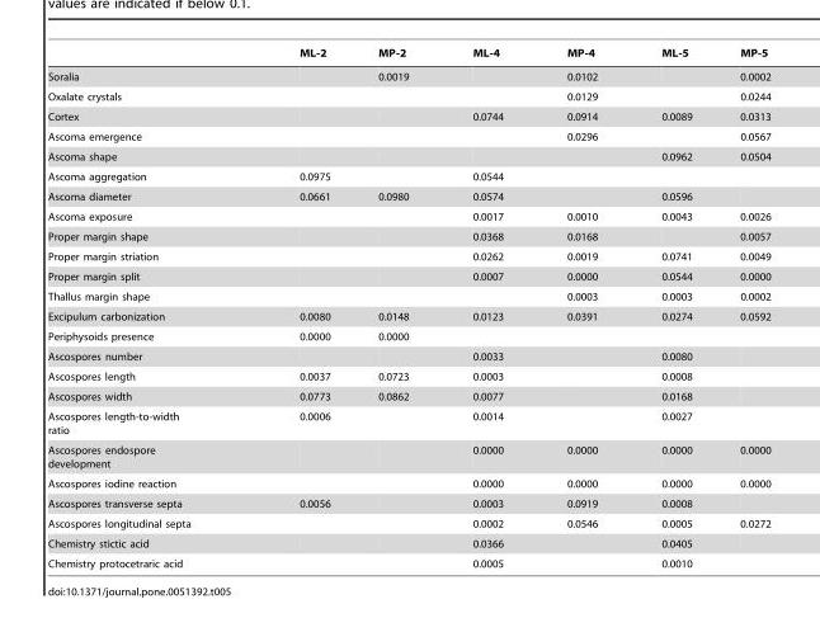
<table><thead><tr><td></td><td>ML-2</td><td>MP-2</td><td>ML-4</td><td>MP-4</td><td>ML-5</td><td>MP-5</td></tr></thead><tbody><tr><td>Soralia</td><td></td><td>0.0019</td><td></td><td>0.0102</td><td></td><td>0.0002</td></tr><tr><td>Oxalate crystals</td><td></td><td></td><td></td><td>0.0129</td><td></td><td>0.0244</td></tr><tr><td>Cortex</td><td></td><td></td><td>0.0744</td><td>0.0914</td><td>0.0089</td><td>0.0313</td></tr><tr><td>Ascoma emergence</td><td></td><td></td><td></td><td>0.0296</td><td></td><td>0.0567</td></tr><tr><td>Ascoma shape</td><td></td><td></td><td></td><td></td><td>0.0962</td><td>0.0504</td></tr><tr><td>Ascoma aggregation</td><td>0.0975</td><td></td><td>0.0544</td><td></td><td></td><td></td></tr><tr><td>Ascoma diameter</td><td>0.0661</td><td>0.0980</td><td>0.0574</td><td></td><td>0.0596</td><td></td></tr><tr><td>Ascoma exposure</td><td></td><td></td><td>0.0017</td><td>0.0010</td><td>0.0043</td><td>0.0026</td></tr><tr><td>Proper margin shape</td><td></td><td></td><td>0.0368</td><td>0.0168</td><td></td><td>0.0057</td></tr><tr><td>Proper margin striation</td><td></td><td></td><td>0.0262</td><td>0.0019</td><td>0.0741</td><td>0.0049</td></tr><tr><td>Proper margin split</td><td></td><td></td><td>0.0007</td><td>0.0000</td><td>0.0544</td><td>0.0000</td></tr><tr><td>Thallus margin shape</td><td></td><td></td><td></td><td>0.0003</td><td>0.0003</td><td>0.0002</td></tr><tr><td>Excipulum carbonization</td><td>0.0080</td><td>0.0148</td><td>0.0123</td><td>0.0391</td><td>0.0274</td><td>0.0592</td></tr><tr><td>Periphysoids presence</td><td>0.0000</td><td>0.0000</td><td></td><td></td><td></td><td></td></tr><tr><td>Ascospores number</td><td></td><td></td><td>0.0033</td><td></td><td>0.0080</td><td></td></tr><tr><td>Ascospores length</td><td>0.0037</td><td>0.0723</td><td>0.0003</td><td></td><td>0.0008</td><td></td></tr><tr><td>Ascospores width</td><td>0.0773</td><td>0.0862</td><td>0.0077</td><td></td><td>0.0168</td><td></td></tr><tr><td>Ascospores length-to-width ratio</td><td>0.0006</td><td></td><td>0.0014</td><td></td><td>0.0027</td><td></td></tr><tr><td>Ascospores endospore development</td><td></td><td></td><td>0.0000</td><td>0.0000</td><td>0.0000</td><td>0.0000</td></tr><tr><td>Ascospores iodine reaction</td><td></td><td></td><td>0.0000</td><td>0.0000</td><td>0.0000</td><td>0.0000</td></tr><tr><td>Ascospores transverse septa</td><td>0.0056</td><td></td><td>0.0003</td><td>0.0919</td><td>0.0008</td><td></td></tr><tr><td>Ascospores longitudinal septa</td><td></td><td></td><td>0.0002</td><td>0.0546</td><td>0.0005</td><td>0.0272</td></tr><tr><td>Chemistry stictic acid</td><td></td><td></td><td>0.0366</td><td></td><td>0.0405</td><td></td></tr><tr><td>Chemistry protocetraric acid</td><td></td><td></td><td>0.0005</td><td></td><td>0.0010</td><td></td></tr></tbody></table>